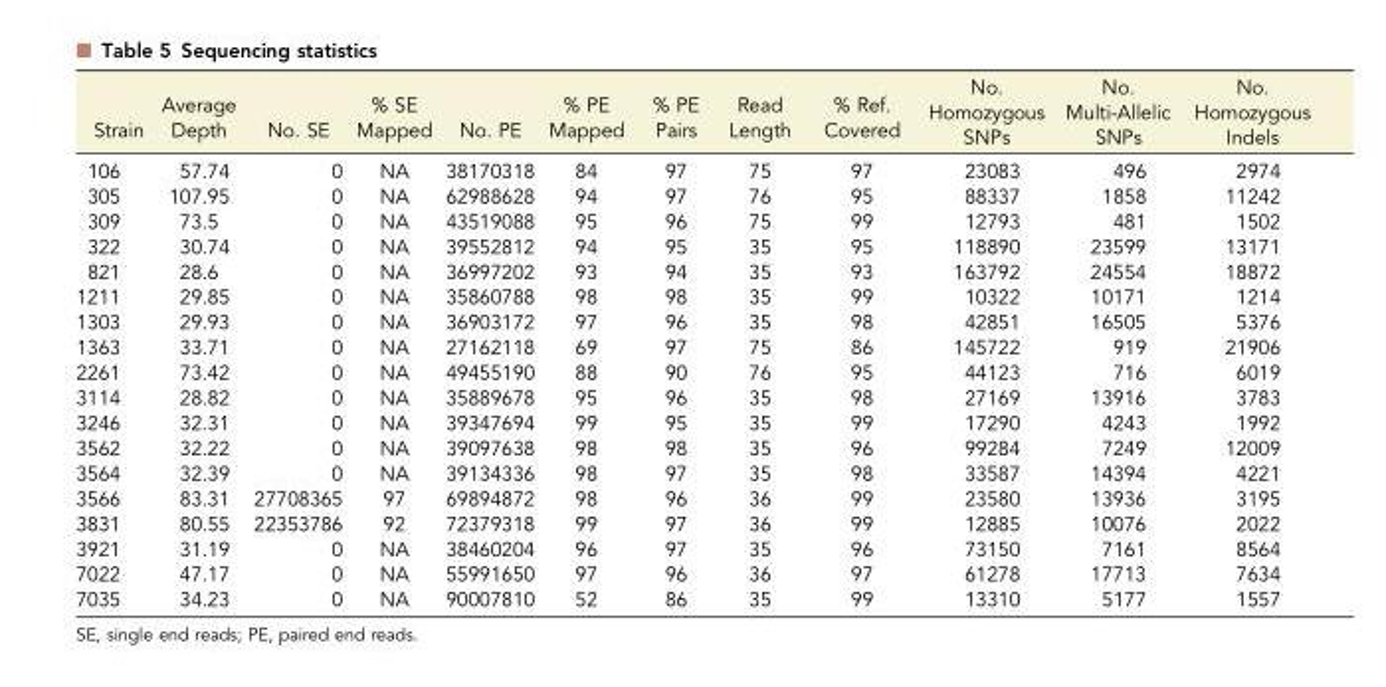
<table><thead><tr><td>Strain</td><td>Average Depth</td><td>No. SE</td><td>% SE Mapped</td><td>No. PE</td><td>% PE Mapped</td><td>% PE Pairs</td><td>Read Length</td><td>% Ref. Covered</td><td>No. Homozygous SNPs</td><td>No. Multi-Allelic SNPs</td><td>No. Homozygous Indels</td></tr></thead><tbody><tr><td>106</td><td>57.74</td><td>0</td><td>NA</td><td>38170318</td><td>84</td><td>97</td><td>75</td><td>97</td><td>23083</td><td>496</td><td>2974</td></tr><tr><td>305</td><td>107.95</td><td>0</td><td>NA</td><td>62988628</td><td>94</td><td>97</td><td>76</td><td>95</td><td>88337</td><td>1858</td><td>11242</td></tr><tr><td>309</td><td>73.5</td><td>0</td><td>NA</td><td>43519088</td><td>95</td><td>96</td><td>75</td><td>99</td><td>12793</td><td>481</td><td>1502</td></tr><tr><td>322</td><td>30.74</td><td>0</td><td>NA</td><td>39552812</td><td>94</td><td>95</td><td>35</td><td>95</td><td>118890</td><td>23599</td><td>13171</td></tr><tr><td>821</td><td>28.6</td><td>0</td><td>NA</td><td>36997202</td><td>93</td><td>94</td><td>35</td><td>93</td><td>163792</td><td>24554</td><td>18872</td></tr><tr><td>1211</td><td>29.85</td><td>0</td><td>NA</td><td>35860788</td><td>98</td><td>98</td><td>35</td><td>99</td><td>10322</td><td>10171</td><td>1214</td></tr><tr><td>1303</td><td>29.93</td><td>0</td><td>NA</td><td>36903172</td><td>97</td><td>96</td><td>35</td><td>98</td><td>42851</td><td>16505</td><td>5376</td></tr><tr><td>1363</td><td>33.71</td><td>0</td><td>NA</td><td>27162118</td><td>69</td><td>97</td><td>75</td><td>86</td><td>145722</td><td>919</td><td>21906</td></tr><tr><td>2261</td><td>73.42</td><td>0</td><td>NA</td><td>49455190</td><td>88</td><td>90</td><td>76</td><td>95</td><td>44123</td><td>716</td><td>6019</td></tr><tr><td>3114</td><td>28.82</td><td>0</td><td>NA</td><td>35889678</td><td>95</td><td>96</td><td>35</td><td>98</td><td>27169</td><td>13916</td><td>3783</td></tr><tr><td>3246</td><td>32.31</td><td>0</td><td>NA</td><td>39347694</td><td>99</td><td>95</td><td>35</td><td>99</td><td>17290</td><td>4243</td><td>1992</td></tr><tr><td>3562</td><td>32.22</td><td>0</td><td>NA</td><td>39097638</td><td>98</td><td>98</td><td>35</td><td>96</td><td>99284</td><td>7249</td><td>12009</td></tr><tr><td>3564</td><td>32.39</td><td>0</td><td>NA</td><td>39134336</td><td>98</td><td>97</td><td>35</td><td>98</td><td>33587</td><td>14394</td><td>4221</td></tr><tr><td>3566</td><td>83.31</td><td>27708365</td><td>97</td><td>69894872</td><td>98</td><td>96</td><td>36</td><td>99</td><td>23580</td><td>13936</td><td>3195</td></tr><tr><td>3831</td><td>80.55</td><td>22353786</td><td>92</td><td>72379318</td><td>99</td><td>97</td><td>36</td><td>99</td><td>12885</td><td>10076</td><td>2022</td></tr><tr><td>3921</td><td>31.19</td><td>0</td><td>NA</td><td>38460204</td><td>96</td><td>97</td><td>35</td><td>96</td><td>73150</td><td>7161</td><td>8564</td></tr><tr><td>7022</td><td>47.17</td><td>0</td><td>NA</td><td>55991650</td><td>97</td><td>96</td><td>36</td><td>97</td><td>61278</td><td>17713</td><td>7634</td></tr><tr><td>7035</td><td>34.23</td><td>0</td><td>NA</td><td>90007810</td><td>52</td><td>86</td><td>35</td><td>99</td><td>13310</td><td>5177</td><td>1557</td></tr></tbody></table>